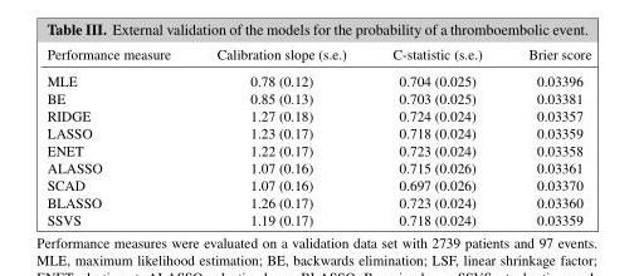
<table><thead><tr><td>Performance measure</td><td>Calibration slope (s.e.)</td><td>C-statistic (s.e.)</td><td>Brier score</td></tr></thead><tbody><tr><td>MLE</td><td>0.78 (0.12)</td><td>0.704 (0.025)</td><td>0.03396</td></tr><tr><td>BE</td><td>0.85 (0.13)</td><td>0.703 (0.025)</td><td>0.03381</td></tr><tr><td>RIDGE</td><td>1.27 (0.18)</td><td>0.724 (0.024)</td><td>0.03357</td></tr><tr><td>LASSO</td><td>1.23 (0.17)</td><td>0.718 (0.024)</td><td>0.03359</td></tr><tr><td>ENET</td><td>1.22 (0.17)</td><td>0.723 (0.024)</td><td>0.03358</td></tr><tr><td>ALASSO</td><td>1.07 (0.16)</td><td>0.715 (0.026)</td><td>0.03361</td></tr><tr><td>SCAD</td><td>1.07 (0.16)</td><td>0.697 (0.026)</td><td>0.03370</td></tr><tr><td>BLASSO</td><td>1.26 (0.17)</td><td>0.723 (0.024)</td><td>0.03360</td></tr><tr><td>SSVS</td><td>1.19 (0.17)</td><td>0.718 (0.024)</td><td>0.03359</td></tr></tbody></table>